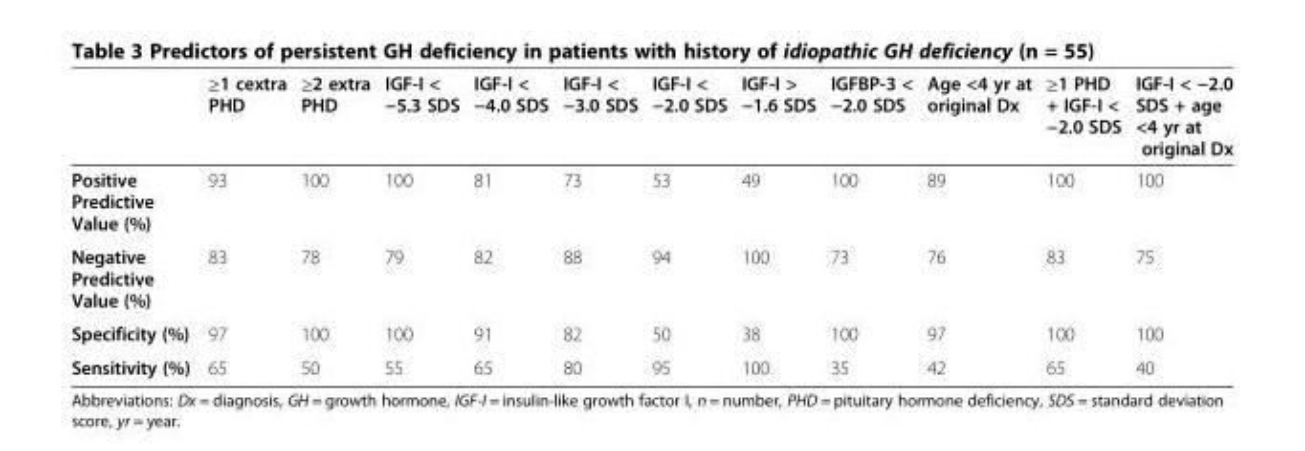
<table><thead><tr><td></td><td>≥1 cextra PHD</td><td>≥2 extra PHD</td><td>IGF-I &lt; −5.3 SDS</td><td>IGF-I &lt; −4.0 SDS</td><td>IGF-I &lt; −3.0 SDS</td><td>IGF-I &lt; −2.0 SDS</td><td>IGF-I &gt; −1.6 SDS</td><td>IGFBP-3 &lt; −2.0 SDS</td><td>Age &lt;4 yr at original Dx</td><td>≥1 PHD + IGF-I &lt; −2.0 SDS</td><td>IGF-I &lt; −2.0 SDS + age &lt;4 yr at original Dx</td></tr></thead><tbody><tr><td>Positive Predictive Value (%)</td><td>93</td><td>100</td><td>100</td><td>81</td><td>73</td><td>53</td><td>49</td><td>100</td><td>89</td><td>100</td><td>100</td></tr><tr><td>Negative Predictive Value (%)</td><td>83</td><td>78</td><td>79</td><td>82</td><td>88</td><td>94</td><td>100</td><td>73</td><td>76</td><td>83</td><td>75</td></tr><tr><td>Specificity (%)</td><td>97</td><td>100</td><td>100</td><td>91</td><td>82</td><td>50</td><td>38</td><td>100</td><td>97</td><td>100</td><td>100</td></tr><tr><td>Sensitivity (%)</td><td>65</td><td>50</td><td>55</td><td>65</td><td>80</td><td>95</td><td>100</td><td>35</td><td>42</td><td>65</td><td>40</td></tr></tbody></table>